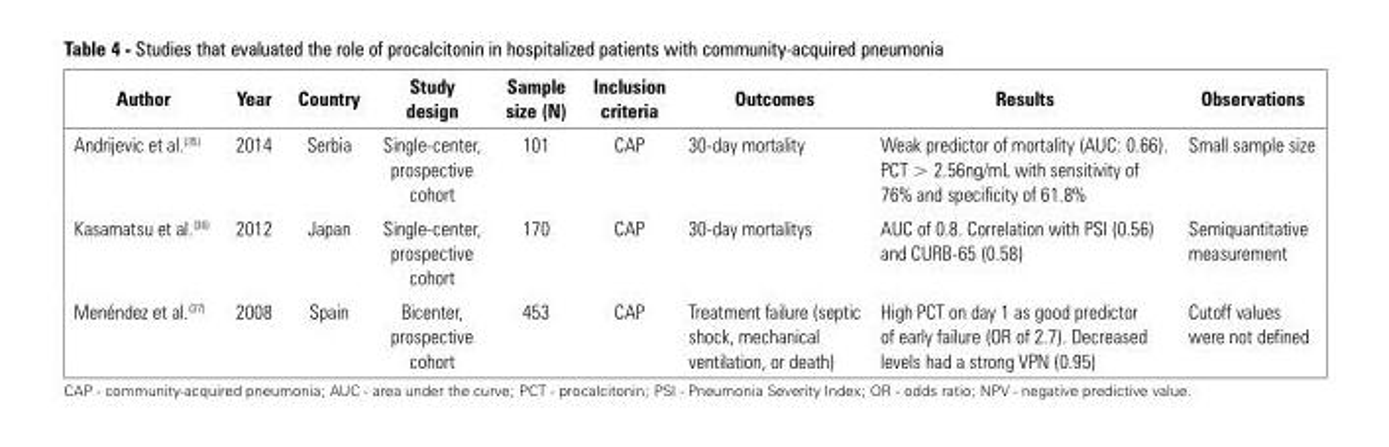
<table><thead><tr><td>Author</td><td>Year</td><td>Country</td><td>Study design</td><td>Sample size (N)</td><td>Inclusion criteria</td><td>Outcomes</td><td>Results</td><td>Observations</td></tr></thead><tbody><tr><td>Andrijevic et al.<sup>(35)</sup></td><td>2014</td><td>Serbia</td><td>Single-center, prospective cohort</td><td>101</td><td>CAP</td><td>30-day mortality</td><td>Weak predictor of mortality (AUC: 0.66). PCT &gt; 2.56ng/mL with sensitivity of 76% and specificity of 61.8%</td><td>Small sample size</td></tr><tr><td>Kasamatsu et al.<sup>(36)</sup></td><td>2012</td><td>Japan</td><td>Single-center, prospective cohort</td><td>170</td><td>CAP</td><td>30-day mortalitys</td><td>AUC of 0.8. Correlation with PSI (0.56) and CURB-65 (0.58)</td><td>Semiquantitative measurement</td></tr><tr><td>Menéndez et al.<sup>(37)</sup></td><td>2008</td><td>Spain</td><td>Bicenter, prospective cohort</td><td>453</td><td>CAP</td><td>Treatment failure (septic shock, mechanical ventilation, or death)</td><td>High PCT on day 1 as good predictor of early failure (OR of 2.7). Decreased levels had a strong VPN (0.95)</td><td>Cutoff values were not defined</td></tr></tbody></table>